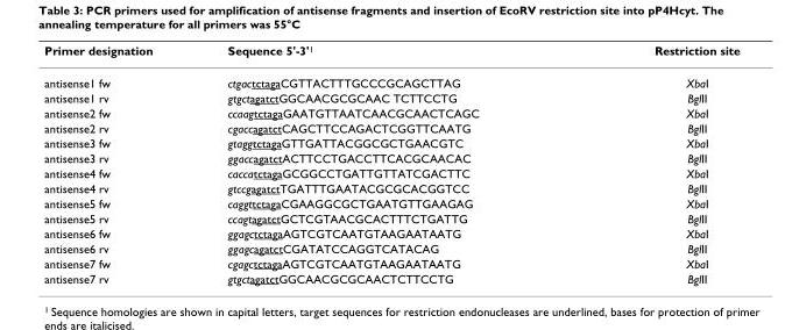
<table><thead><tr><td>Primer designation</td><td>Sequence 5&#x27;-3&#x27;<sup>1</sup></td><td>Restriction site</td></tr></thead><tbody><tr><td>antisense1 fw</td><td>ctgactctagaCGTTACTTTGCCCGCAGCTTAG</td><td>XbaI</td></tr><tr><td>antisense1 rv</td><td>gtgctagatctGGCAACGCGCAAC TCTTCCTG</td><td>BglII</td></tr><tr><td>antisense2 fw</td><td>ccaagtctagaGAATGTTAATCAACGCAACTCAGC</td><td>XbaI</td></tr><tr><td>antisense2 rv</td><td>cgaccagatctCAGCTTCCAGACTCGGTTCAATG</td><td>BglII</td></tr><tr><td>antisense3 fw</td><td>gtaggtctagaGTTGATTACGGCGCTGAACGTC</td><td>XbaI</td></tr><tr><td>antisense3 rv</td><td>ggaccagatctACTTCCTGACCTTCACGCAACAC</td><td>BglII</td></tr><tr><td>antisense4 fw</td><td>caccatctagaGCGGCCTGATTGTTATCGACTTC</td><td>XbaI</td></tr><tr><td>antisense4 rv</td><td>gtccgagatctTGATTTGAATACGCGCACGGTCC</td><td>BglII</td></tr><tr><td>antisense5 fw</td><td>caggttctagaCGAAGGCGCTGAATGTTGAAGAG</td><td>XbaI</td></tr><tr><td>antisense5 rv</td><td>ccagtagatctGCTCGTAACGCACTTTCTGATTG</td><td>BglII</td></tr><tr><td>antisense6 fw</td><td>ggagctctagaAGTCGTCAATGTAAGAATAATG</td><td>XbaI</td></tr><tr><td>antisense6 rv</td><td>ggagcagatctCGATATCCAGGTCATACAG</td><td>BglII</td></tr><tr><td>antisense7 fw</td><td>cgagctctagaAGTCGTCAATGTAAGAATAATG</td><td>XbaI</td></tr><tr><td>antisense7 rv</td><td>gtgctagatctGGCAACGCGCAACTCTTCCTG</td><td>BglII</td></tr></tbody></table>